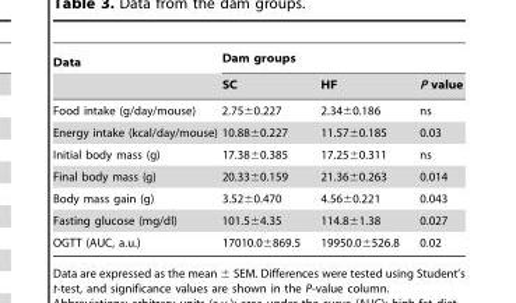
<table><thead><tr><td rowspan="2">Data</td><td colspan="3">Dam groups</td></tr><tr><td>SC</td><td>HF</td><td>P value</td></tr></thead><tbody><tr><td>Food intake (g/day/mouse)</td><td>2.75±0.227</td><td>2.34±0.186</td><td>ns</td></tr><tr><td>Energy intake (kcal/day/mouse)</td><td>10.88±0.227</td><td>11.57±0.185</td><td>0.03</td></tr><tr><td>Initial body mass (g)</td><td>17.38±0.385</td><td>17.25±0.311</td><td>ns</td></tr><tr><td>Final body mass (g)</td><td>20.33±0.159</td><td>21.36±0.263</td><td>0.014</td></tr><tr><td>Body mass gain (g)</td><td>3.52±0.470</td><td>4.56±0.221</td><td>0.043</td></tr><tr><td>Fasting glucose (mg/dl)</td><td>101.5±4.35</td><td>114.8±1.38</td><td>0.027</td></tr><tr><td>OGTT (AUC, a.u.)</td><td>17010.0±869.5</td><td>19950.0±526.8</td><td>0.02</td></tr></tbody></table>